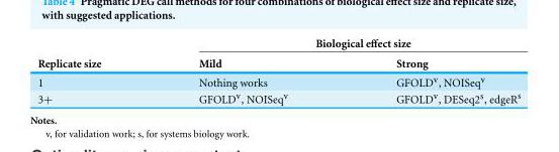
<table><thead><tr><td rowspan="2">Replicate size</td><td colspan="2">Biological effect size</td></tr><tr><td>Mild</td><td>Strong</td></tr></thead><tbody><tr><td>1</td><td>Nothing works</td><td>GFOLD<sup>v</sup>, NOISeq<sup>v</sup></td></tr><tr><td>3+</td><td>GFOLD<sup>v</sup>, NOISeq<sup>v</sup></td><td>GFOLD<sup>v</sup>, DESeq2<sup>s</sup>, edgeR<sup>s</sup></td></tr></tbody></table>